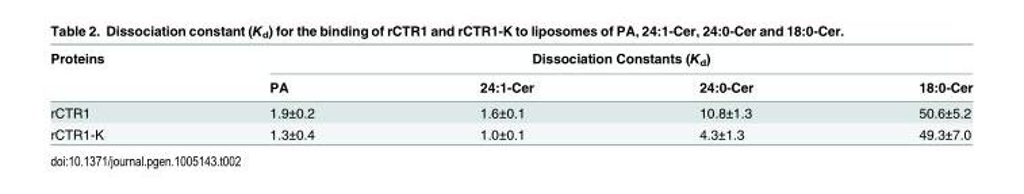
<table><thead><tr><td rowspan="2">Proteins</td><td colspan="4">Dissociation Constants (K<sub>d</sub>)</td></tr><tr><td>PA</td><td>24:1-Cer</td><td>24:0-Cer</td><td>18:0-Cer</td></tr></thead><tbody><tr><td>rCTR1</td><td>1.9±0.2</td><td>1.6±0.1</td><td>10.8±1.3</td><td>50.6±5.2</td></tr><tr><td>rCTR1-K</td><td>1.3±0.4</td><td>1.0±0.1</td><td>4.3±1.3</td><td>49.3±7.0</td></tr></tbody></table>